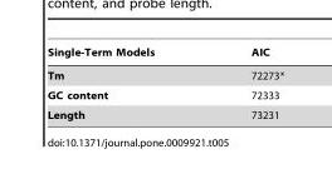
<table><thead><tr><td>Single-Term Models</td><td>AIC</td></tr></thead><tbody><tr><td>Tm</td><td>72273*</td></tr><tr><td>GC content</td><td>72333</td></tr><tr><td>Length</td><td>73231</td></tr></tbody></table>